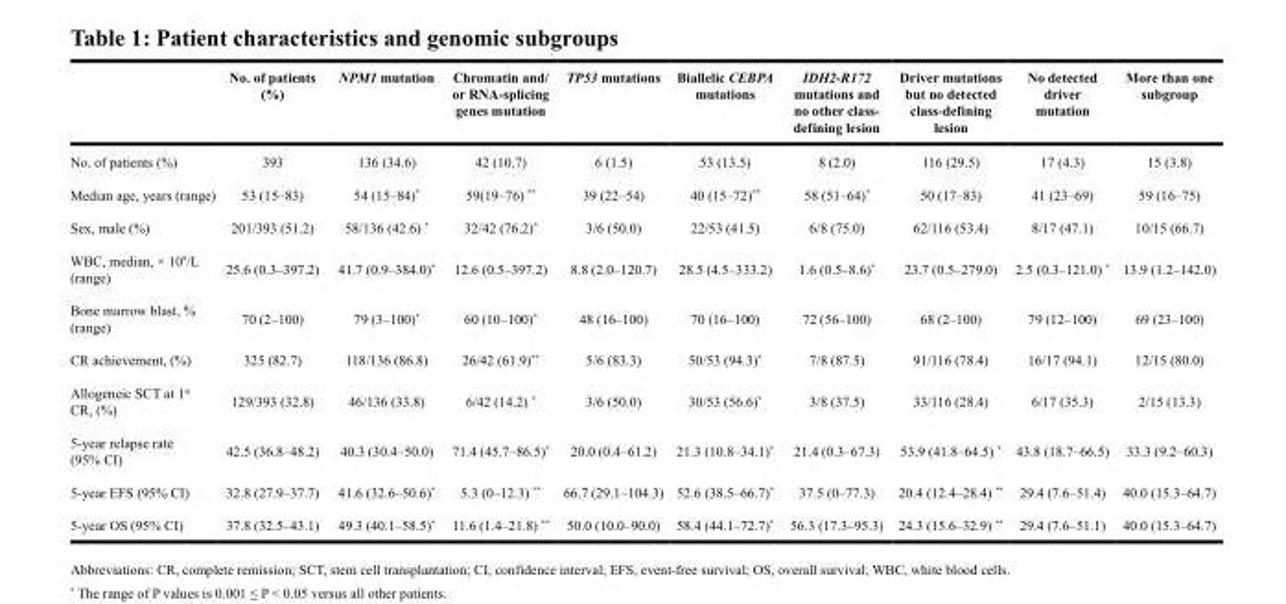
<table><thead><tr><td></td><td>No. of patients (%)</td><td>NPM1 mutation</td><td>Chromatin and/ or RNA-splicing genes mutation</td><td>TP53 mutations</td><td>Biallelic CEBPA mutations</td><td>IDH2-R172 mutations and no other class- defining lesion</td><td>Driver mutations but no detected class-defining lesion</td><td>No detected driver mutation</td><td>More than one subgroup</td></tr></thead><tbody><tr><td>No. of patients (%)</td><td>393</td><td>136 (34.6)</td><td>42 (10.7)</td><td>6 (1.5)</td><td>53 (13.5)</td><td>8 (2.0)</td><td>116 (29.5)</td><td>17 (4.3)</td><td>15 (3.8)</td></tr><tr><td>Median age, years (range)</td><td>53 (15–83)</td><td>54 (15–84)*</td><td>59(19–76) **</td><td>39 (22–54)</td><td>40 (15–72)**</td><td>58 (51–64)*</td><td>50 (17–83)</td><td>41 (23–69)</td><td>59 (16–75)</td></tr><tr><td>Sex, male (%)</td><td>201/393 (51.2)</td><td>58/136 (42.6) *</td><td>32/42 (76.2)*</td><td>3/6 (50.0)</td><td>22/53 (41.5)</td><td>6/8 (75.0)</td><td>62/116 (53.4)</td><td>8/17 (47.1)</td><td>10/15 (66.7)</td></tr><tr><td>WBC, median, × 10<sup>9</sup>/L (range)</td><td>25.6 (0.3–397.2)</td><td>41.7 (0.9–384.0)*</td><td>12.6 (0.5–397.2)</td><td>8.8 (2.0–120.7)</td><td>28.5 (4.5–333.2)</td><td>1.6 (0.5–8.6)*</td><td>23.7 (0.5–279.0)</td><td>2.5 (0.3–121.0) *</td><td>13.9 (1.2–142.0)</td></tr><tr><td>Bone marrow blast, % (range)</td><td>70 (2–100)</td><td>79 (3–100)*</td><td>60 (10–100)*</td><td>48 (16–100)</td><td>70 (16–100)</td><td>72 (56–100)</td><td>68 (2–100)</td><td>79 (12–100)</td><td>69 (23–100)</td></tr><tr><td>CR achievement, (%)</td><td>325 (82.7)</td><td>118/136 (86.8)</td><td>26/42 (61.9)**</td><td>5/6 (83.3)</td><td>50/53 (94.3)*</td><td>7/8 (87.5)</td><td>91/116 (78.4)</td><td>16/17 (94.1)</td><td>12/15 (80.0)</td></tr><tr><td>Allogeneic SCT at 1<sup>st</sup> CR, (%)</td><td>129/393 (32.8)</td><td>46/136 (33.8)</td><td>6/42 (14.2) *</td><td>3/6 (50.0)</td><td>30/53 (56.6)*</td><td>3/8 (37.5)</td><td>33/116 (28.4)</td><td>6/17 (35.3)</td><td>2/15 (13.3)</td></tr><tr><td>5-year relapse rate (95% CI)</td><td>42.5 (36.8–48.2)</td><td>40.3 (30.4–50.0)</td><td>71.4 (45.7–86.5)*</td><td>20.0 (0.4–61.2)</td><td>21.3 (10.8–34.1)*</td><td>21.4 (0.3–67.3)</td><td>53.9 (41.8–64.5) *</td><td>43.8 (18.7–66.5)</td><td>33.3 (9.2–60.3)</td></tr><tr><td>5-year EFS (95% CI)</td><td>32.8 (27.9–37.7)</td><td>41.6 (32.6–50.6)*</td><td>5.3 (0–12.3) **</td><td>66.7 (29.1–104.3)</td><td>52.6 (38.5–66.7)*</td><td>37.5 (0–77.3)</td><td>20.4 (12.4–28.4) **</td><td>29.4 (7.6–51.4)</td><td>40.0 (15.3–64.7)</td></tr><tr><td>5-year OS (95% CI)</td><td>37.8 (32.5–43.1)</td><td>49.3 (40.1–58.5)*</td><td>11.6 (1.4–21.8) **</td><td>50.0 (10.0–90.0)</td><td>58.4 (44.1–72.7)*</td><td>56.3 (17.3–95.3)</td><td>24.3 (15.6–32.9) **</td><td>29.4 (7.6–51.1)</td><td>40.0 (15.3–64.7)</td></tr></tbody></table>